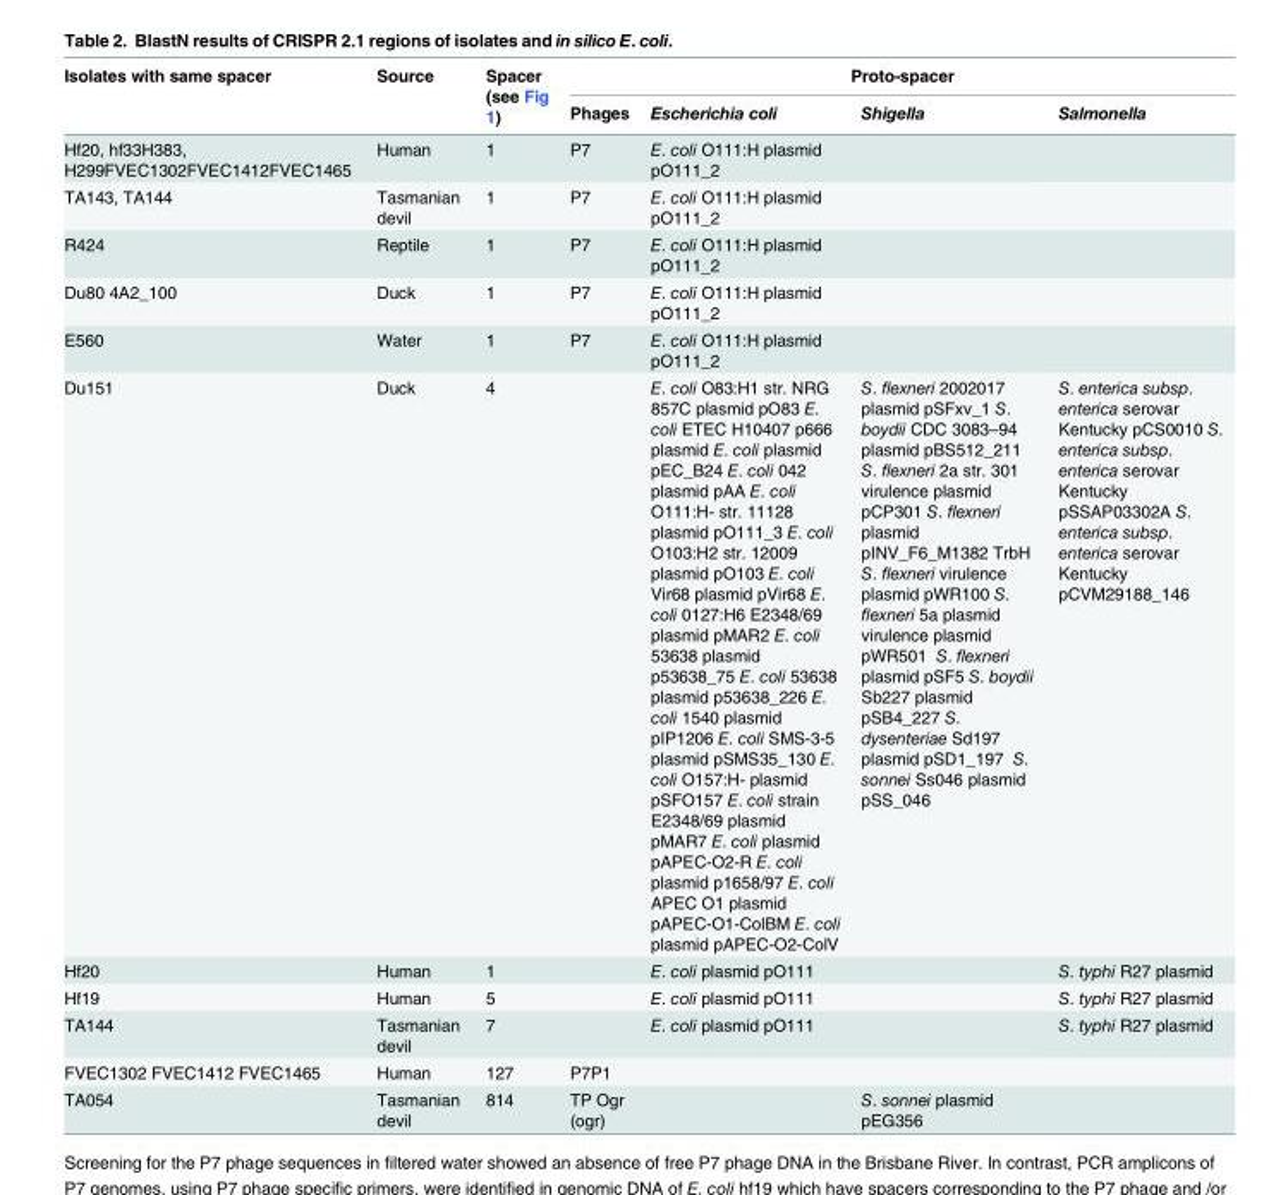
<table><thead><tr><td rowspan="2">Isolates with same spacer</td><td rowspan="2">Source</td><td rowspan="2">Spacer (see Fig 1)</td><td colspan="4">Proto-spacer</td></tr><tr><td>Phages</td><td>Escherichia coli</td><td>Shigella</td><td>Salmonella</td></tr></thead><tbody><tr><td>Hf20, hf33H383, H299FVEC1302FVEC1412FVEC1465</td><td>Human</td><td>1</td><td>P7</td><td>E. coli O111:H plasmid pO111_2</td><td></td><td></td></tr><tr><td>TA143, TA144</td><td>Tasmanian devil</td><td>1</td><td>P7</td><td>E. coli O111:H plasmid pO111_2</td><td></td><td></td></tr><tr><td>R424</td><td>Reptile</td><td>1</td><td>P7</td><td>E. coli O111:H plasmid pO111_2</td><td></td><td></td></tr><tr><td>Du80 4A2_100</td><td>Duck</td><td>1</td><td>P7</td><td>E. coli O111:H plasmid pO111_2</td><td></td><td></td></tr><tr><td>E560</td><td>Water</td><td>1</td><td>P7</td><td>E. coli O111:H plasmid pO111_2</td><td></td><td></td></tr><tr><td>Du151</td><td>Duck</td><td>4</td><td></td><td>E. coli O83:H1 str. NRG 857C plasmid pO83 E. coli ETEC H10407 p666 plasmid E. coli plasmid pEC_B24 E. coli 042 plasmid pAA E. coli O111:H- str. 11128 plasmid pO111_3 E. coli O103:H2 str. 12009 plasmid pO103 E. coli Vir68 plasmid pVir68 E. coli 0127:H6 E2348/69 plasmid pMAR2 E. coli 53638 plasmid p53638_75 E. coli 53638 plasmid p53638_226 E. coli 1540 plasmid pIP1206 E. coli SMS-3-5 plasmid pSMS35_130 E. coli O157:H- plasmid pSFO157 E. coli strain E2348/69 plasmid pMAR7 E. coli plasmid pAPEC-O2-R E. coli plasmid p1658/97 E. coli APEC O1 plasmid pAPEC-O1-ColBM E. coli plasmid pAPEC-O2-ColV</td><td>S. flexneri 2002017 plasmid pSFxv_1 S. boydii CDC 3083–94 plasmid pBS512_211 S. flexneri 2a str. 301 virulence plasmid pCP301 S. flexneri plasmid pINV_F6_M1382 TrbH S. flexneri virulence plasmid pWR100 S. flexneri 5a plasmid virulence plasmid pWR501 S. flexneri plasmid pSF5 S. boydii Sb227 plasmid pSB4_227 S. dysenteriae Sd197 plasmid pSD1_197 S. sonnei Ss046 plasmid pSS_046</td><td>S. enterica subsp. enterica serovar Kentucky pCS0010 S. enterica subsp. enterica serovar Kentucky pSSAP03302A S. enterica subsp. enterica serovar Kentucky pCVM29188_146</td></tr><tr><td>Hf20</td><td>Human</td><td>1</td><td></td><td>E. coli plasmid pO111</td><td></td><td>S. typhi R27 plasmid</td></tr><tr><td>Hf19</td><td>Human</td><td>5</td><td></td><td>E. coli plasmid pO111</td><td></td><td>S. typhi R27 plasmid</td></tr><tr><td>TA144</td><td>Tasmanian devil</td><td>7</td><td></td><td>E. coli plasmid pO111</td><td></td><td>S. typhi R27 plasmid</td></tr><tr><td>FVEC1302 FVEC1412 FVEC1465</td><td>Human</td><td>127</td><td>P7P1</td><td></td><td></td><td></td></tr><tr><td>TA054</td><td>Tasmanian devil</td><td>814</td><td>TP Ogr (ogr)</td><td></td><td>S. sonnei plasmid pEG356</td><td></td></tr></tbody></table>